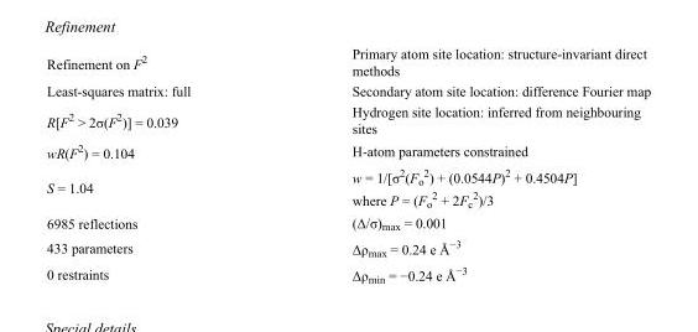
<table><tbody><tr><td>Refinement on F<sup>2</sup></td><td>Primary atom site location: structure-invariant direct methods</td></tr><tr><td>Least-squares matrix: full</td><td>Secondary atom site location: difference Fourier map</td></tr><tr><td>R[F<sup>2</sup> &gt; 2σ(F<sup>2</sup>)] = 0.039</td><td>Hydrogen site location: inferred from neighbouring sites</td></tr><tr><td>wR(F<sup>2</sup>) = 0.104</td><td>H-atom parameters constrained</td></tr><tr><td>S = 1.04</td><td>w = 1/[σ<sup>2</sup>(F<sub>o</sub> <sup>2</sup>) + (0.0544P)<sup>2</sup> + 0.4504P] where P = (F<sub>o</sub> <sup>2</sup> + 2F<sub>c</sub> <sup>2</sup>)/3</td></tr><tr><td>6985 reflections</td><td>(Δ/σ)<sub>max</sub> = 0.001</td></tr><tr><td>433 parameters</td><td>Δρ<sub>max</sub> = 0.24 e Å<sup>−3</sup></td></tr><tr><td>0 restraints</td><td>Δρ<sub>min</sub> = −0.24 e Å<sup>−3</sup></td></tr></tbody></table>